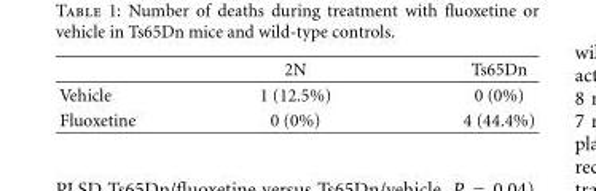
<table><thead><tr><td></td><td>2N</td><td>Ts65Dn</td></tr></thead><tbody><tr><td>Vehicle</td><td>1 (12.5%)</td><td>0 (0%)</td></tr><tr><td>Fluoxetine</td><td>0 (0%)</td><td>4 (44.4%)</td></tr></tbody></table>